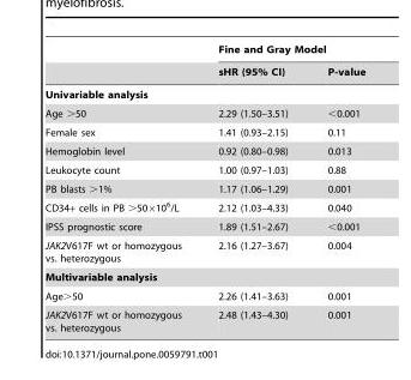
<table><thead><tr><td rowspan="2"></td><td colspan="2">Fine and Gray Model</td></tr><tr><td>sHR (95% CI)</td><td>P-value</td></tr></thead><tbody><tr><td colspan="3">Univariable analysis</td></tr><tr><td>Age &gt;50</td><td>2.29 (1.50–3.51)</td><td>&lt;0.001</td></tr><tr><td>Female sex</td><td>1.41 (0.93–2.15)</td><td>0.11</td></tr><tr><td>Hemoglobin level</td><td>0.92 (0.80–0.98)</td><td>0.013</td></tr><tr><td>Leukocyte count</td><td>1.00 (0.97–1.03)</td><td>0.88</td></tr><tr><td>PB blasts &gt;1%</td><td>1.17 (1.06–1.29)</td><td>0.001</td></tr><tr><td>CD34+ cells in PB &gt;50×10<sup>6</sup>/L</td><td>2.12 (1.03–4.33)</td><td>0.040</td></tr><tr><td>IPSS prognostic score</td><td>1.89 (1.51–2.67)</td><td>&lt;0.001</td></tr><tr><td>JAK2V617F wt or homozygous vs. heterozygous</td><td>2.16 (1.27–3.67)</td><td>0.004</td></tr><tr><td colspan="3">Multivariable analysis</td></tr><tr><td>Age&gt;50</td><td>2.26 (1.41–3.63)</td><td>0.001</td></tr><tr><td>JAK2V617F wt or homozygous vs. heterozygous</td><td>2.48 (1.43–4.30)</td><td>0.001</td></tr></tbody></table>